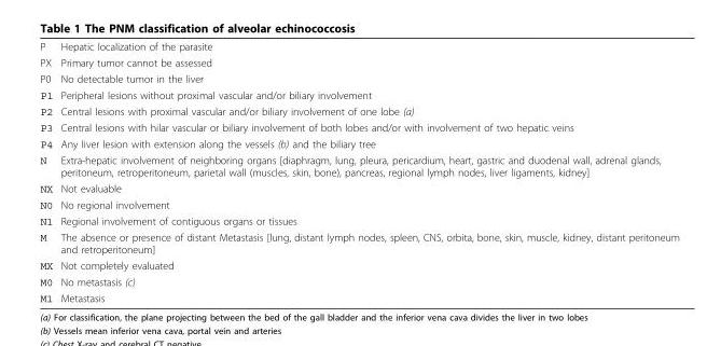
<table><tbody><tr><td>P</td><td>Hepatic localization of the parasite</td></tr><tr><td>PX</td><td>Primary tumor cannot be assessed</td></tr><tr><td>P0</td><td>No detectable tumor in the liver</td></tr><tr><td>P1</td><td>Peripheral lesions without proximal vascular and/or biliary involvement</td></tr><tr><td>P2</td><td>Central lesions with proximal vascular and/or biliary involvement of one lobe (a)</td></tr><tr><td>P3</td><td>Central lesions with hilar vascular or biliary involvement of both lobes and/or with involvement of two hepatic veins</td></tr><tr><td>P4</td><td>Any liver lesion with extension along the vessels (b) and the biliary tree</td></tr><tr><td>N</td><td>Extra-hepatic involvement of neighboring organs [diaphragm, lung, pleura, pericardium, heart, gastric and duodenal wall, adrenal glands, peritoneum, retroperitoneum, parietal wall (muscles, skin, bone), pancreas, regional lymph nodes, liver ligaments, kidney]</td></tr><tr><td>NX</td><td>Not evaluable</td></tr><tr><td>N0</td><td>No regional involvement</td></tr><tr><td>N1</td><td>Regional involvement of contiguous organs or tissues</td></tr><tr><td>M</td><td>The absence or presence of distant Metastasis [lung, distant lymph nodes, spleen, CNS, orbita, bone, skin, muscle, kidney, distant peritoneum and retroperitoneum]</td></tr><tr><td>MX</td><td>Not completely evaluated</td></tr><tr><td>M0</td><td>No metastasis (c)</td></tr><tr><td>M1</td><td>Metastasis</td></tr></tbody></table>